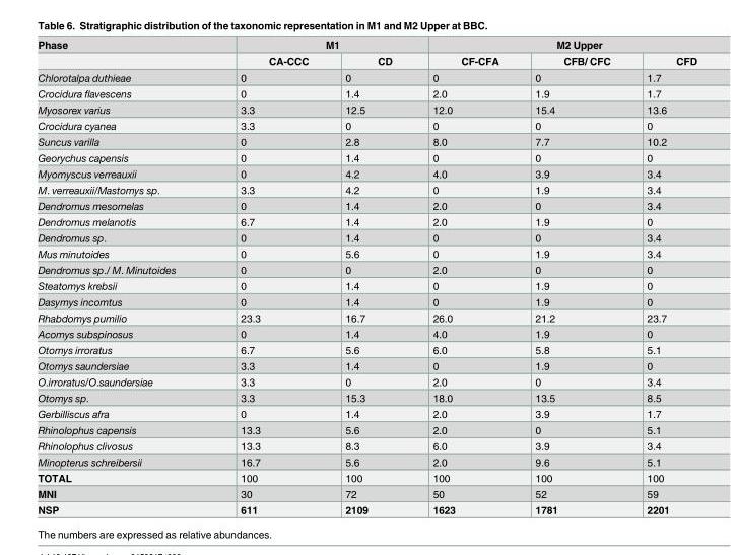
<table><thead><tr><td rowspan="2">Phase</td><td colspan="2">M1</td><td colspan="3">M2 Upper</td></tr><tr><td>CA-CCC</td><td>CD</td><td>CF-CFA</td><td>CFB/ CFC</td><td>CFD</td></tr></thead><tbody><tr><td>Chlorotalpa duthieae</td><td>0</td><td>0</td><td>0</td><td>0</td><td>1.7</td></tr><tr><td>Crocidura flavescens</td><td>0</td><td>1.4</td><td>2.0</td><td>1.9</td><td>1.7</td></tr><tr><td>Myosorex varius</td><td>3.3</td><td>12.5</td><td>12.0</td><td>15.4</td><td>13.6</td></tr><tr><td>Crocidura cyanea</td><td>3.3</td><td>0</td><td>0</td><td>0</td><td>0</td></tr><tr><td>Suncus varilla</td><td>0</td><td>2.8</td><td>8.0</td><td>7.7</td><td>10.2</td></tr><tr><td>Georychus capensis</td><td>0</td><td>1.4</td><td>0</td><td>0</td><td>0</td></tr><tr><td>Myomyscus verreauxii</td><td>0</td><td>4.2</td><td>4.0</td><td>3.9</td><td>3.4</td></tr><tr><td>M. verreauxii/Mastomys sp.</td><td>3.3</td><td>4.2</td><td>0</td><td>1.9</td><td>3.4</td></tr><tr><td>Dendromus mesomelas</td><td>0</td><td>1.4</td><td>2.0</td><td>0</td><td>3.4</td></tr><tr><td>Dendromus melanotis</td><td>6.7</td><td>1.4</td><td>2.0</td><td>1.9</td><td>0</td></tr><tr><td>Dendromus sp.</td><td>0</td><td>1.4</td><td>0</td><td>0</td><td>3.4</td></tr><tr><td>Mus minutoides</td><td>0</td><td>5.6</td><td>0</td><td>1.9</td><td>3.4</td></tr><tr><td>Dendromus sp./ M. Minutoides</td><td>0</td><td>0</td><td>2.0</td><td>0</td><td>0</td></tr><tr><td>Steatomys krebsii</td><td>0</td><td>1.4</td><td>0</td><td>1.9</td><td>0</td></tr><tr><td>Dasymys incomtus</td><td>0</td><td>1.4</td><td>0</td><td>1.9</td><td>0</td></tr><tr><td>Rhabdomys pumilio</td><td>23.3</td><td>16.7</td><td>26.0</td><td>21.2</td><td>23.7</td></tr><tr><td>Acomys subspinosus</td><td>0</td><td>1.4</td><td>4.0</td><td>1.9</td><td>0</td></tr><tr><td>Otomys irroratus</td><td>6.7</td><td>5.6</td><td>6.0</td><td>5.8</td><td>5.1</td></tr><tr><td>Otomys saundersiae</td><td>3.3</td><td>1.4</td><td>0</td><td>1.9</td><td>0</td></tr><tr><td>O.irroratus/O.saundersiae</td><td>3.3</td><td>0</td><td>2.0</td><td>0</td><td>3.4</td></tr><tr><td>Otomys sp.</td><td>3.3</td><td>15.3</td><td>18.0</td><td>13.5</td><td>8.5</td></tr><tr><td>Gerbilliscus afra</td><td>0</td><td>1.4</td><td>2.0</td><td>3.9</td><td>1.7</td></tr><tr><td>Rhinolophus capensis</td><td>13.3</td><td>5.6</td><td>2.0</td><td>0</td><td>5.1</td></tr><tr><td>Rhinolophus clivosus</td><td>13.3</td><td>8.3</td><td>6.0</td><td>3.9</td><td>3.4</td></tr><tr><td>Minopterus schreibersii</td><td>16.7</td><td>5.6</td><td>2.0</td><td>9.6</td><td>5.1</td></tr><tr><td>TOTAL</td><td>100</td><td>100</td><td>100</td><td>100</td><td>100</td></tr><tr><td>MNI</td><td>30</td><td>72</td><td>50</td><td>52</td><td>59</td></tr><tr><td>NSP</td><td>611</td><td>2109</td><td>1623</td><td>1781</td><td>2201</td></tr></tbody></table>